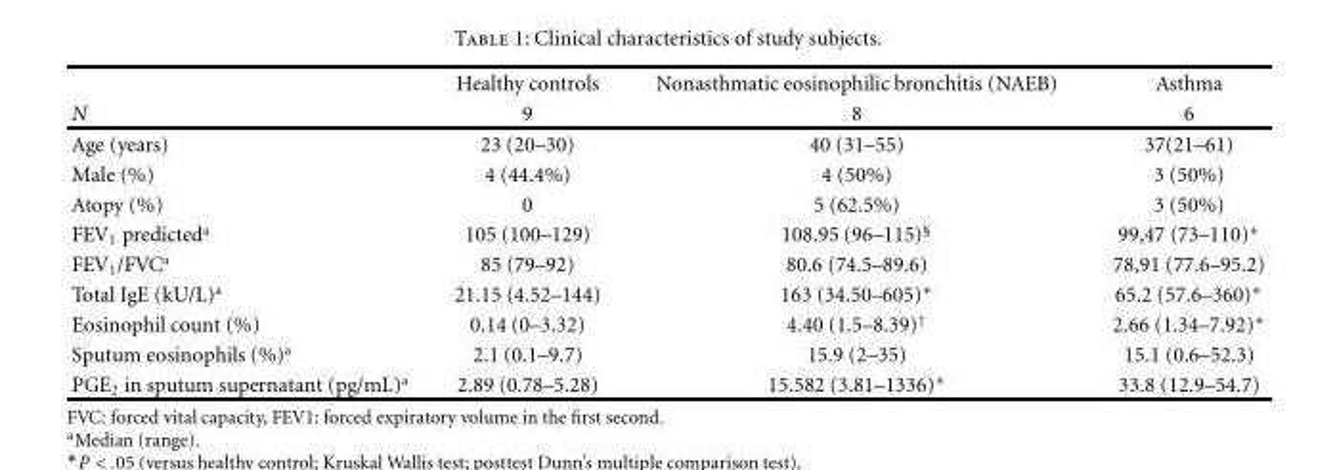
<table><thead><tr><td></td><td>Healthy controls</td><td>Nonasthmatic eosinophilic bronchitis (NAEB)</td><td>Asthma</td></tr></thead><tbody><tr><td>N</td><td>9</td><td>8</td><td>6</td></tr><tr><td>Age (years)</td><td>23 (20–30)</td><td>40 (31–55)</td><td>37(21–61)</td></tr><tr><td>Male (%)</td><td>4 (44.4%)</td><td>4 (50%)</td><td>3 (50%)</td></tr><tr><td>Atopy (%)</td><td>0</td><td>5 (62.5%)</td><td>3 (50%)</td></tr><tr><td>FEV<sub>1</sub> predicted<sup>a</sup></td><td>105 (100–129)</td><td>108.95 (96–115)<sup>§</sup></td><td>99,47 (73–110)∗</td></tr><tr><td>FEV<sub>1</sub>/FVC<sup>a</sup></td><td>85 (79–92)</td><td>80.6 (74.5–89.6)</td><td>78,91 (77.6–95.2)</td></tr><tr><td>Total IgE (kU/L)<sup>a</sup></td><td>21.15 (4.52–144)</td><td>163 (34.50–605)∗</td><td>65.2 (57.6–360)∗</td></tr><tr><td>Eosinophil count (%)</td><td>0.14 (0–3.32)</td><td>4.40 (1.5–8.39)<sup>†</sup></td><td>2.66 (1.34–7.92)∗</td></tr><tr><td>Sputum eosinophils (%)<sup>a</sup></td><td>2.1 (0.1–9.7)</td><td>15.9 (2–35)</td><td>15.1 (0.6–52.3)</td></tr><tr><td>PGE<sub>2</sub> in sputum supernatant (pg/mL)<sup>a</sup></td><td>2.89 (0.78–5.28)</td><td>15.582 (3.81–1336)∗</td><td>33.8 (12.9–54.7)</td></tr></tbody></table>